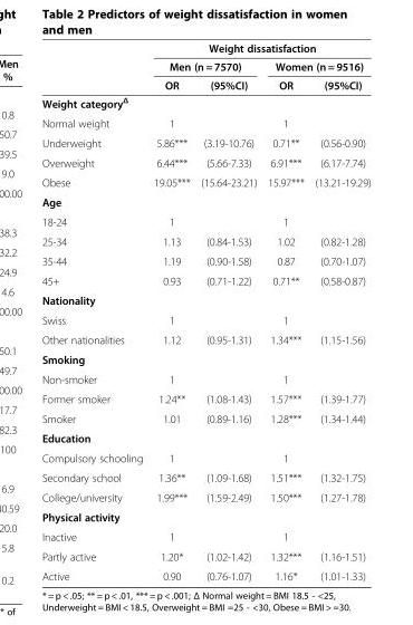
<table><thead><tr><td rowspan="3"></td><td colspan="4">Weight dissatisfaction</td></tr><tr><td colspan="2">Men (n = 7570)</td><td colspan="2">Women (n = 9516)</td></tr><tr><td>OR</td><td>(95%CI)</td><td>OR</td><td>(95%CI)</td></tr></thead><tbody><tr><td colspan="5">Weight category<sup>Δ</sup></td></tr><tr><td>Normal weight</td><td>1</td><td></td><td>1</td><td></td></tr><tr><td>Underweight</td><td>5.86***</td><td>(3.19-10.76)</td><td>0.71**</td><td>(0.56-0.90)</td></tr><tr><td>Overweight</td><td>6.44***</td><td>(5.66-7.33)</td><td>6.91***</td><td>(6.17-7.74)</td></tr><tr><td>Obese</td><td>19.05***</td><td>(15.64-23.21)</td><td>15.97***</td><td>(13.21-19.29)</td></tr><tr><td colspan="5">Age</td></tr><tr><td>18-24</td><td>1</td><td></td><td>1</td><td></td></tr><tr><td>25-34</td><td>1.13</td><td>(0.84-1.53)</td><td>1.02</td><td>(0.82-1.28)</td></tr><tr><td>35-44</td><td>1.19</td><td>(0.90-1.58)</td><td>0.87</td><td>(0.70-1.07)</td></tr><tr><td>45+</td><td>0.93</td><td>(0.71-1.22)</td><td>0.71**</td><td>(0.58-0.87)</td></tr><tr><td colspan="5">Nationality</td></tr><tr><td>Swiss</td><td>1</td><td></td><td>1</td><td></td></tr><tr><td>Other nationalities</td><td>1.12</td><td>(0.95-1.31)</td><td>1.34***</td><td>(1.15-1.56)</td></tr><tr><td colspan="5">Smoking</td></tr><tr><td>Non-smoker</td><td>1</td><td></td><td>1</td><td></td></tr><tr><td>Former smoker</td><td>1.24**</td><td>(1.08-1.43)</td><td>1.57***</td><td>(1.39-1.77)</td></tr><tr><td>Smoker</td><td>1.01</td><td>(0.89-1.16)</td><td>1.28***</td><td>(1.34-1.44)</td></tr><tr><td colspan="5">Education</td></tr><tr><td>Compulsory schooling</td><td>1</td><td></td><td>1</td><td></td></tr><tr><td>Secondary school</td><td>1.36**</td><td>(1.09-1.68)</td><td>1.51***</td><td>(1.32-1.75)</td></tr><tr><td>College/university</td><td>1.99***</td><td>(1.59-2.49)</td><td>1.50***</td><td>(1.27-1.78)</td></tr><tr><td colspan="5">Physical activity</td></tr><tr><td>Inactive</td><td>1</td><td></td><td>1</td><td></td></tr><tr><td>Partly active</td><td>1.20*</td><td>(1.02-1.42)</td><td>1.32***</td><td>(1.16-1.51)</td></tr><tr><td>Active</td><td>0.90</td><td>(0.76-1.07)</td><td>1.16*</td><td>(1.01-1.33)</td></tr></tbody></table>